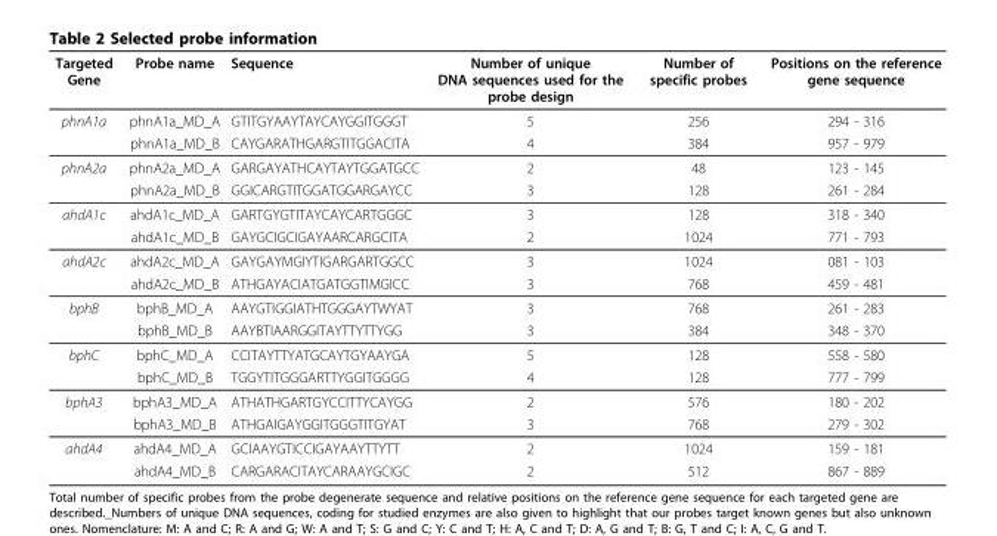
<table><thead><tr><td>Targeted Gene</td><td>Probe name</td><td>Sequence</td><td>Number of unique DNA sequences used for the probe design</td><td>Number of specific probes</td><td>Positions on the reference gene sequence</td></tr></thead><tbody><tr><td rowspan="2">phnA1a</td><td>phnA1a_MD_A</td><td>GTITGYAAYTAYCAYGGITGGGT</td><td>5</td><td>256</td><td>294 - 316</td></tr><tr><td>phnA1a_MD_B</td><td>CAYGARATHGARGTITGGACITA</td><td>4</td><td>384</td><td>957 - 979</td></tr><tr><td rowspan="2">phnA2a</td><td>phnA2a_MD_A</td><td>GARGAYATHCAYTAYTGGATGCC</td><td>2</td><td>48</td><td>123 - 145</td></tr><tr><td>phnA2a_MD_B</td><td>GGICARGTITGGATGGARGAYCC</td><td>3</td><td>128</td><td>261 - 284</td></tr><tr><td rowspan="2">ahdA1c</td><td>ahdA1c_MD_A</td><td>GARTGYGTITAYCAYCARTGGGC</td><td>3</td><td>128</td><td>318 - 340</td></tr><tr><td>ahdA1c_MD_B</td><td>GAYGCIGCIGAYAARCARGCITA</td><td>2</td><td>1024</td><td>771 - 793</td></tr><tr><td rowspan="2">ahdA2c</td><td>ahdA2c_MD_A</td><td>GAYGAYMGIYTIGARGARTGGCC</td><td>3</td><td>1024</td><td>081 - 103</td></tr><tr><td>ahdA2c_MD_B</td><td>ATHGAYACIATGATGGTIMGICC</td><td>3</td><td>768</td><td>459 - 481</td></tr><tr><td rowspan="2">bphB</td><td>bphB_MD_A</td><td>AAYGTIGGIATHTGGGAYTWYAT</td><td>3</td><td>768</td><td>261 - 283</td></tr><tr><td>bphB_MD_B</td><td>AAYBTIAARGGITAYTTYTTYGG</td><td>3</td><td>384</td><td>348 - 370</td></tr><tr><td rowspan="2">bphC</td><td>bphC_MD_A</td><td>CCITAYTTYATGCAYTGYAAYGA</td><td>5</td><td>128</td><td>558 - 580</td></tr><tr><td>bphC_MD_B</td><td>TGGYTITGGGARTTYGGITGGGG</td><td>4</td><td>128</td><td>777 - 799</td></tr><tr><td rowspan="2">bphA3</td><td>bphA3_MD_A</td><td>ATHATHGARTGYCCITTYCAYGG</td><td>2</td><td>576</td><td>180 - 202</td></tr><tr><td>bphA3_MD_B</td><td>ATHGAIGAYGGITGGGTITGYAT</td><td>3</td><td>768</td><td>279 - 302</td></tr><tr><td rowspan="2">ahdA4</td><td>ahdA4_MD_A</td><td>GCIAAYGTICCIGAYAAYTTYTT</td><td>2</td><td>1024</td><td>159 - 181</td></tr><tr><td>ahdA4_MD_B</td><td>CARGARACITAYCARAAYGCIGC</td><td>2</td><td>512</td><td>867 - 889</td></tr></tbody></table>